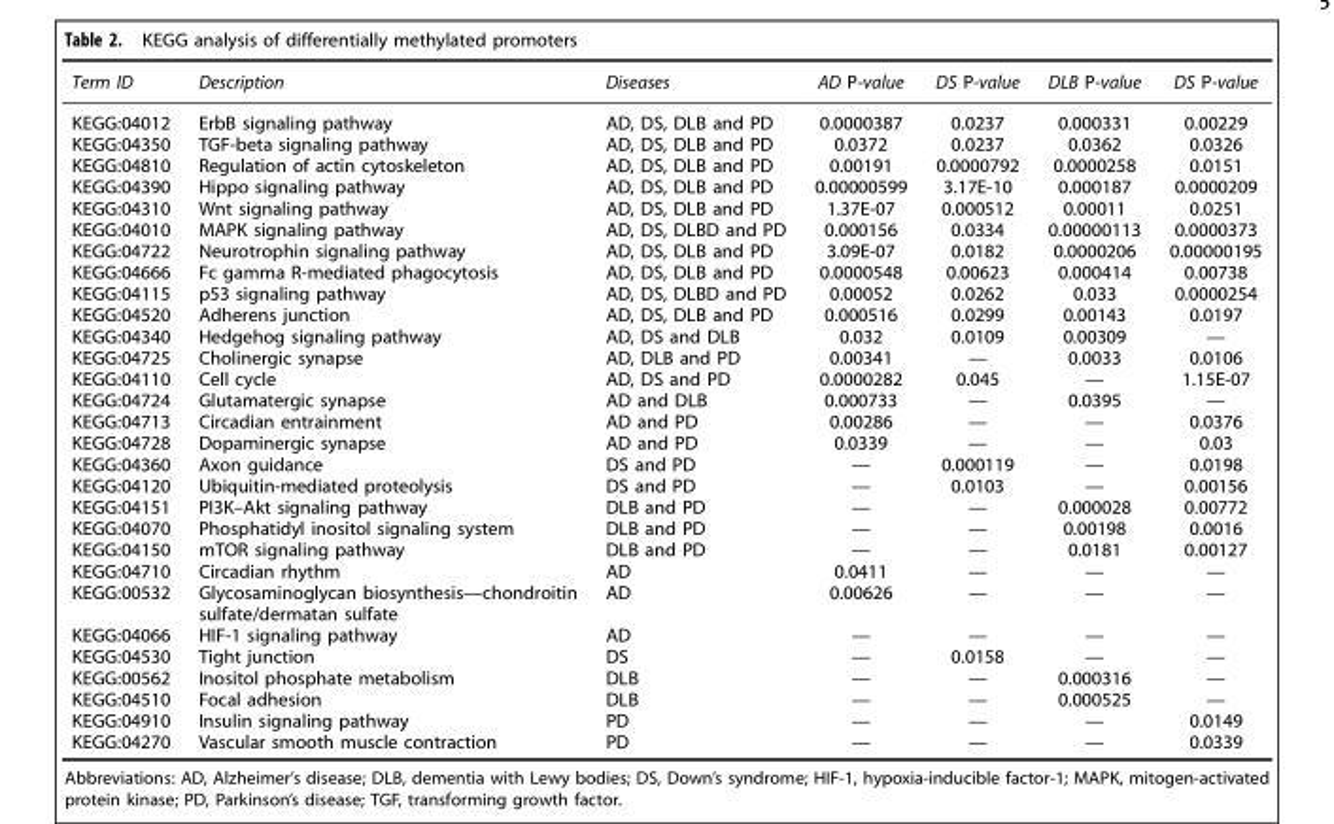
<table><thead><tr><td>Term ID</td><td>Description</td><td>Diseases</td><td>AD P-value</td><td>DS P-value</td><td>DLB P-value</td><td>DS P-value</td></tr></thead><tbody><tr><td>KEGG:04012</td><td>ErbB signaling pathway</td><td>AD, DS, DLB and PD</td><td>0.0000387</td><td>0.0237</td><td>0.000331</td><td>0.00229</td></tr><tr><td>KEGG:04350</td><td>TGF-beta signaling pathway</td><td>AD, DS, DLB and PD</td><td>0.0372</td><td>0.0237</td><td>0.0362</td><td>0.0326</td></tr><tr><td>KEGG:04810</td><td>Regulation of actin cytoskeleton</td><td>AD, DS, DLB and PD</td><td>0.00191</td><td>0.0000792</td><td>0.0000258</td><td>0.0151</td></tr><tr><td>KEGG:04390</td><td>Hippo signaling pathway</td><td>AD, DS, DLB and PD</td><td>0.00000599</td><td>3.17E-10</td><td>0.000187</td><td>0.0000209</td></tr><tr><td>KEGG:04310</td><td>Wnt signaling pathway</td><td>AD, DS, DLB and PD</td><td>1.37E-07</td><td>0.000512</td><td>0.00011</td><td>0.0251</td></tr><tr><td>KEGG:04010</td><td>MAPK signaling pathway</td><td>AD, DS, DLBD and PD</td><td>0.000156</td><td>0.0334</td><td>0.00000113</td><td>0.0000373</td></tr><tr><td>KEGG:04722</td><td>Neurotrophin signaling pathway</td><td>AD, DS, DLB and PD</td><td>3.09E-07</td><td>0.0182</td><td>0.0000206</td><td>0.00000195</td></tr><tr><td>KEGG:04666</td><td>Fc gamma R-mediated phagocytosis</td><td>AD, DS, DLB and PD</td><td>0.0000548</td><td>0.00623</td><td>0.000414</td><td>0.00738</td></tr><tr><td>KEGG:04115</td><td>p53 signaling pathway</td><td>AD, DS, DLBD and PD</td><td>0.00052</td><td>0.0262</td><td>0.033</td><td>0.0000254</td></tr><tr><td>KEGG:04520</td><td>Adherens junction</td><td>AD, DS, DLB and PD</td><td>0.000516</td><td>0.0299</td><td>0.00143</td><td>0.0197</td></tr><tr><td>KEGG:04340</td><td>Hedgehog signaling pathway</td><td>AD, DS and DLB</td><td>0.032</td><td>0.0109</td><td>0.00309</td><td>—</td></tr><tr><td>KEGG:04725</td><td>Cholinergic synapse</td><td>AD, DLB and PD</td><td>0.00341</td><td>—</td><td>0.0033</td><td>0.0106</td></tr><tr><td>KEGG:04110</td><td>Cell cycle</td><td>AD, DS and PD</td><td>0.0000282</td><td>0.045</td><td>—</td><td>1.15E-07</td></tr><tr><td>KEGG:04724</td><td>Glutamatergic synapse</td><td>AD and DLB</td><td>0.000733</td><td>—</td><td>0.0395</td><td>—</td></tr><tr><td>KEGG:04713</td><td>Circadian entrainment</td><td>AD and PD</td><td>0.00286</td><td>—</td><td>—</td><td>0.0376</td></tr><tr><td>KEGG:04728</td><td>Dopaminergic synapse</td><td>AD and PD</td><td>0.0339</td><td>—</td><td>—</td><td>0.03</td></tr><tr><td>KEGG:04360</td><td>Axon guidance</td><td>DS and PD</td><td>—</td><td>0.000119</td><td>—</td><td>0.0198</td></tr><tr><td>KEGG:04120</td><td>Ubiquitin-mediated proteolysis</td><td>DS and PD</td><td>—</td><td>0.0103</td><td>—</td><td>0.00156</td></tr><tr><td>KEGG:04151</td><td>PI3K–Akt signaling pathway</td><td>DLB and PD</td><td>—</td><td>—</td><td>0.000028</td><td>0.00772</td></tr><tr><td>KEGG:04070</td><td>Phosphatidyl inositol signaling system</td><td>DLB and PD</td><td>—</td><td>—</td><td>0.00198</td><td>0.0016</td></tr><tr><td>KEGG:04150</td><td>mTOR signaling pathway</td><td>DLB and PD</td><td>—</td><td>—</td><td>0.0181</td><td>0.00127</td></tr><tr><td>KEGG:04710</td><td>Circadian rhythm</td><td>AD</td><td>0.0411</td><td>—</td><td>—</td><td>—</td></tr><tr><td>KEGG:00532</td><td>Glycosaminoglycan biosynthesis—chondroitin sulfate/dermatan sulfate</td><td>AD</td><td>0.00626</td><td>—</td><td>—</td><td>—</td></tr><tr><td>KEGG:04066</td><td>HIF-1 signaling pathway</td><td>AD</td><td>—</td><td>—</td><td>—</td><td>—</td></tr><tr><td>KEGG:04530</td><td>Tight junction</td><td>DS</td><td>—</td><td>0.0158</td><td>—</td><td>—</td></tr><tr><td>KEGG:00562</td><td>Inositol phosphate metabolism</td><td>DLB</td><td>—</td><td>—</td><td>0.000316</td><td>—</td></tr><tr><td>KEGG:04510</td><td>Focal adhesion</td><td>DLB</td><td>—</td><td>—</td><td>0.000525</td><td>—</td></tr><tr><td>KEGG:04910</td><td>Insulin signaling pathway</td><td>PD</td><td>—</td><td>—</td><td>—</td><td>0.0149</td></tr><tr><td>KEGG:04270</td><td>Vascular smooth muscle contraction</td><td>PD</td><td>—</td><td>—</td><td>—</td><td>0.0339</td></tr></tbody></table>